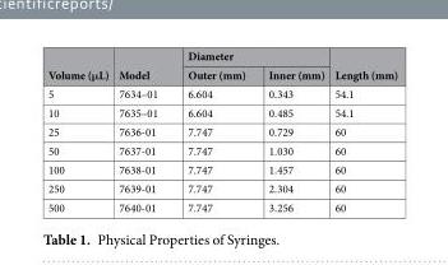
<table><thead><tr><td rowspan="2">Volume (μL)</td><td rowspan="2">Model</td><td colspan="2">Diameter</td><td rowspan="2">Length (mm)</td></tr><tr><td>Outer (mm)</td><td>Inner (mm)</td></tr></thead><tbody><tr><td>5</td><td>7634–01</td><td>6.604</td><td>0.343</td><td>54.1</td></tr><tr><td>10</td><td>7635–01</td><td>6.604</td><td>0.485</td><td>54.1</td></tr><tr><td>25</td><td>7636-01</td><td>7.747</td><td>0.729</td><td>60</td></tr><tr><td>50</td><td>7637-01</td><td>7.747</td><td>1.030</td><td>60</td></tr><tr><td>100</td><td>7638-01</td><td>7.747</td><td>1.457</td><td>60</td></tr><tr><td>250</td><td>7639-01</td><td>7.747</td><td>2.304</td><td>60</td></tr><tr><td>500</td><td>7640-01</td><td>7.747</td><td>3.256</td><td>60</td></tr></tbody></table>